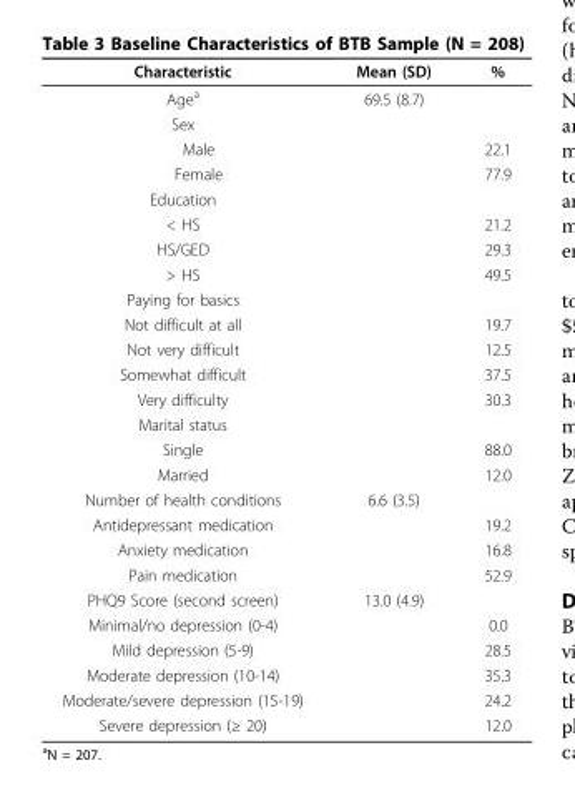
<table><thead><tr><td>Characteristic</td><td>Mean (SD)</td><td>%</td></tr></thead><tbody><tr><td>Age<sup>a</sup></td><td>69.5 (8.7)</td><td></td></tr><tr><td colspan="3">Sex</td></tr><tr><td>Male</td><td></td><td>22.1</td></tr><tr><td>Female</td><td></td><td>77.9</td></tr><tr><td colspan="3">Education</td></tr><tr><td>&lt; HS</td><td></td><td>21.2</td></tr><tr><td>HS/GED</td><td></td><td>29.3</td></tr><tr><td>&gt; HS</td><td></td><td>49.5</td></tr><tr><td colspan="3">Paying for basics</td></tr><tr><td>Not difficult at all</td><td></td><td>19.7</td></tr><tr><td>Not very difficult</td><td></td><td>12.5</td></tr><tr><td>Somewhat difficult</td><td></td><td>37.5</td></tr><tr><td>Very difficulty</td><td></td><td>30.3</td></tr><tr><td colspan="3">Marital status</td></tr><tr><td>Single</td><td></td><td>88.0</td></tr><tr><td>Married</td><td></td><td>12.0</td></tr><tr><td>Number of health conditions</td><td>6.6 (3.5)</td><td></td></tr><tr><td>Antidepressant medication</td><td></td><td>19.2</td></tr><tr><td>Anxiety medication</td><td></td><td>16.8</td></tr><tr><td>Pain medication</td><td></td><td>52.9</td></tr><tr><td>PHQ9 Score (second screen)</td><td>13.0 (4.9)</td><td></td></tr><tr><td>Minimal/no depression (0-4)</td><td></td><td>0.0</td></tr><tr><td>Mild depression (5-9)</td><td></td><td>28.5</td></tr><tr><td>Moderate depression (10-14)</td><td></td><td>35.3</td></tr><tr><td>Moderate/severe depression (15-19)</td><td></td><td>24.2</td></tr><tr><td>Severe depression (≥ 20)</td><td></td><td>12.0</td></tr></tbody></table>